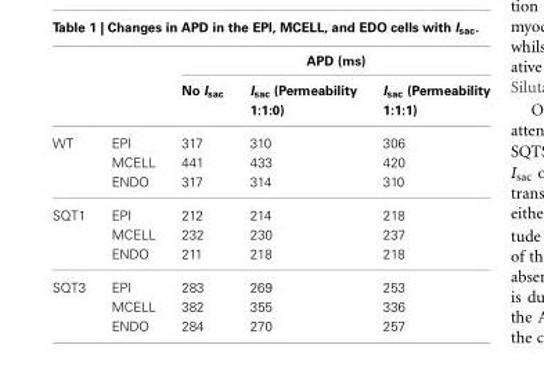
<table><thead><tr><td rowspan="2"></td><td rowspan="2"></td><td colspan="3">APD (ms)</td></tr><tr><td>No I<sub>sac</sub></td><td>I<sub>sac</sub> (Permeability 1:1:0)</td><td>I<sub>sac</sub> (Permeability 1:1:1)</td></tr></thead><tbody><tr><td rowspan="3">WT</td><td>EPI</td><td>317</td><td>310</td><td>306</td></tr><tr><td>MCELL</td><td>441</td><td>433</td><td>420</td></tr><tr><td>ENDO</td><td>317</td><td>314</td><td>310</td></tr><tr><td rowspan="3">SQT1</td><td>EPI</td><td>212</td><td>214</td><td>218</td></tr><tr><td>MCELL</td><td>232</td><td>230</td><td>237</td></tr><tr><td>ENDO</td><td>211</td><td>218</td><td>218</td></tr><tr><td rowspan="3">SQT3</td><td>EPI</td><td>283</td><td>269</td><td>253</td></tr><tr><td>MCELL</td><td>382</td><td>355</td><td>336</td></tr><tr><td>ENDO</td><td>284</td><td>270</td><td>257</td></tr></tbody></table>